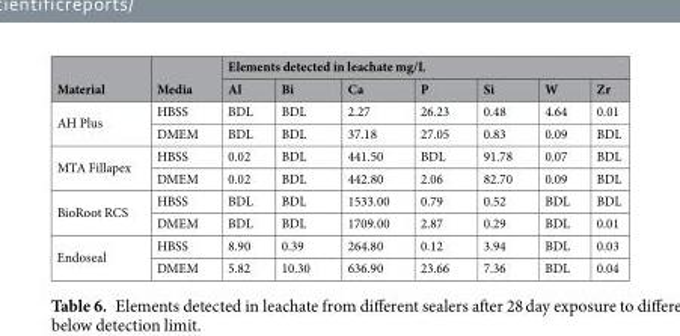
<table><thead><tr><td rowspan="2">Material</td><td rowspan="2">Media</td><td colspan="7">Elements detected in leachate mg/L</td></tr><tr><td>Al</td><td>Bi</td><td>Ca</td><td>P</td><td>Si</td><td>W</td><td>Zr</td></tr></thead><tbody><tr><td rowspan="2">AH Plus</td><td>HBSS</td><td>BDL</td><td>BDL</td><td>2.27</td><td>26.23</td><td>0.48</td><td>4.64</td><td>0.01</td></tr><tr><td>DMEM</td><td>BDL</td><td>BDL</td><td>37.18</td><td>27.05</td><td>0.83</td><td>0.09</td><td>BDL</td></tr><tr><td rowspan="2">MTA Fillapex</td><td>HBSS</td><td>0.02</td><td>BDL</td><td>441.50</td><td>BDL</td><td>91.78</td><td>0.07</td><td>BDL</td></tr><tr><td>DMEM</td><td>0.02</td><td>BDL</td><td>442.80</td><td>2.06</td><td>82.70</td><td>0.09</td><td>BDL</td></tr><tr><td rowspan="2">BioRoot RCS</td><td>HBSS</td><td>BDL</td><td>BDL</td><td>1533.00</td><td>0.79</td><td>0.52</td><td>BDL</td><td>BDL</td></tr><tr><td>DMEM</td><td>BDL</td><td>BDL</td><td>1709.00</td><td>2.87</td><td>0.29</td><td>BDL</td><td>0.01</td></tr><tr><td rowspan="2">Endoseal</td><td>HBSS</td><td>8.90</td><td>0.39</td><td>264.80</td><td>0.12</td><td>3.94</td><td>BDL</td><td>0.03</td></tr><tr><td>DMEM</td><td>5.82</td><td>10.30</td><td>636.90</td><td>23.66</td><td>7.36</td><td>BDL</td><td>0.04</td></tr></tbody></table>